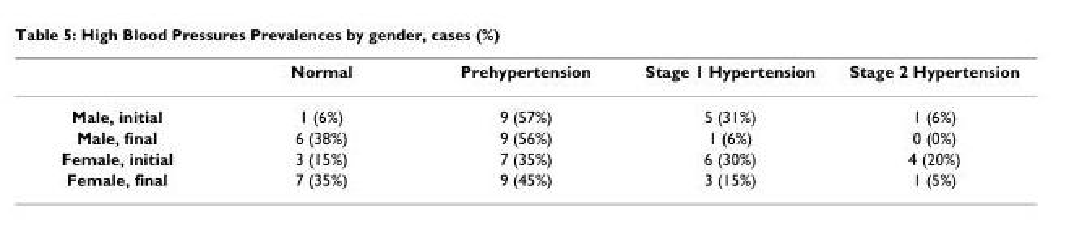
<table><thead><tr><td></td><td>Normal</td><td>Prehypertension</td><td>Stage 1 Hypertension</td><td>Stage 2 Hypertension</td></tr></thead><tbody><tr><td>Male, initial</td><td>1 (6%)</td><td>9 (57%)</td><td>5 (31%)</td><td>1 (6%)</td></tr><tr><td>Male, final</td><td>6 (38%)</td><td>9 (56%)</td><td>1 (6%)</td><td>0 (0%)</td></tr><tr><td>Female, initial</td><td>3 (15%)</td><td>7 (35%)</td><td>6 (30%)</td><td>4 (20%)</td></tr><tr><td>Female, final</td><td>7 (35%)</td><td>9 (45%)</td><td>3 (15%)</td><td>1 (5%)</td></tr></tbody></table>